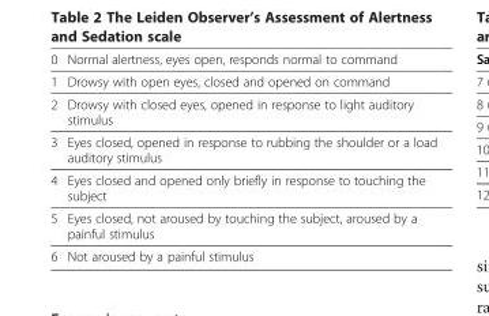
<table><tbody><tr><td>0</td><td>Normal alertness, eyes open, responds normal to command</td></tr><tr><td>1</td><td>Drowsy with open eyes, closed and opened on command</td></tr><tr><td>2</td><td>Drowsy with closed eyes, opened in response to light auditory stimulus</td></tr><tr><td>3</td><td>Eyes closed, opened in response to rubbing the shoulder or a load auditory stimulus</td></tr><tr><td>4</td><td>Eyes closed and opened only briefly in response to touching the subject</td></tr><tr><td>5</td><td>Eyes closed, not aroused by touching the subject, aroused by a painful stimulus</td></tr><tr><td>6</td><td>Not aroused by a painful stimulus</td></tr></tbody></table>